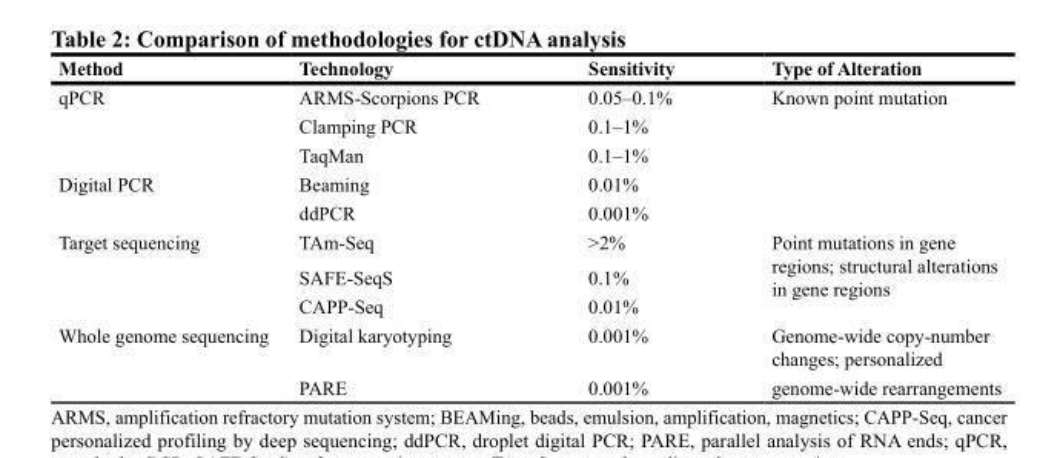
<table><thead><tr><td>Method</td><td>Technology</td><td>Sensitivity</td><td>Type of Alteration</td></tr></thead><tbody><tr><td rowspan="3">qPCR</td><td>ARMS-Scorpions PCR</td><td>0.05–0.1%</td><td rowspan="3">Known point mutation</td></tr><tr><td>Clamping PCR</td><td>0.1–1%</td></tr><tr><td>TaqMan</td><td>0.1–1%</td></tr><tr><td rowspan="2">Digital PCR</td><td>Beaming</td><td>0.01%</td><td rowspan="2"></td></tr><tr><td>ddPCR</td><td>0.001%</td></tr><tr><td rowspan="3">Target sequencing</td><td>TAm-Seq</td><td>&gt;2%</td><td rowspan="3">Point mutations in gene regions; structural alterations in gene regions</td></tr><tr><td>SAFE-SeqS</td><td>0.1%</td></tr><tr><td>CAPP-Seq</td><td>0.01%</td></tr><tr><td rowspan="2">Whole genome sequencing</td><td>Digital karyotyping</td><td>0.001%</td><td>Genome-wide copy-number changes; personalized</td></tr><tr><td>PARE</td><td>0.001%</td><td>genome-wide rearrangements</td></tr></tbody></table>